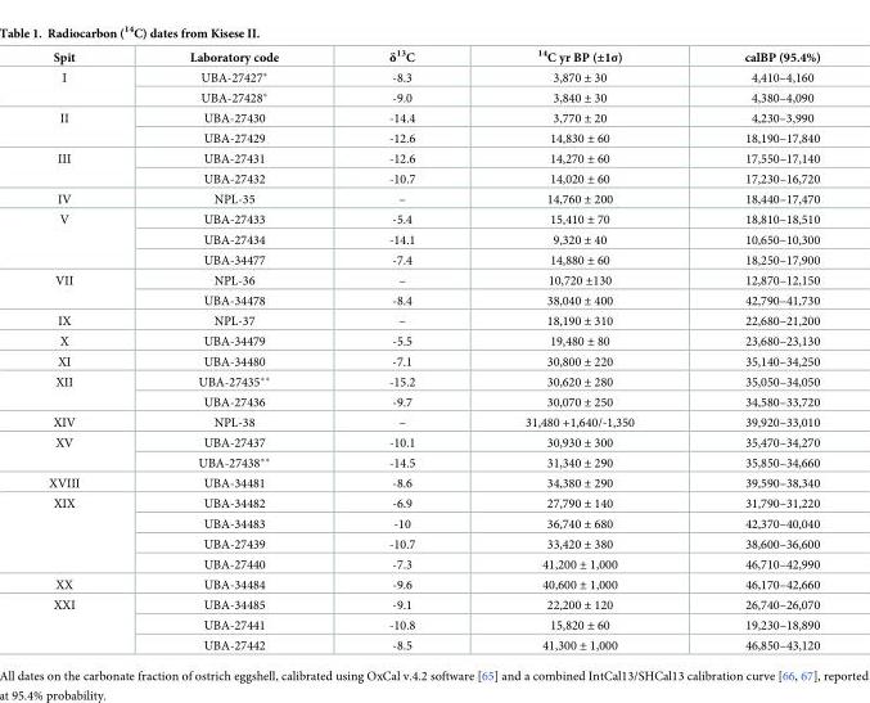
<table><thead><tr><td>Spit</td><td>Laboratory code</td><td>δ<sup>13</sup>C</td><td><sup>14</sup>C yr BP (±1σ)</td><td>calBP (95.4%)</td></tr></thead><tbody><tr><td rowspan="2">I</td><td>UBA-27427*</td><td>-8.3</td><td>3,870 ± 30</td><td>4,410–4,160</td></tr><tr><td>UBA-27428*</td><td>-9.0</td><td>3,840 ± 30</td><td>4,380–4,090</td></tr><tr><td rowspan="2">II</td><td>UBA-27430</td><td>-14.4</td><td>3,770 ± 20</td><td>4,230–3,990</td></tr><tr><td>UBA-27429</td><td>-12.6</td><td>14,830 ± 60</td><td>18,190–17,840</td></tr><tr><td rowspan="2">III</td><td>UBA-27431</td><td>-12.6</td><td>14,270 ± 60</td><td>17,550–17,140</td></tr><tr><td>UBA-27432</td><td>-10.7</td><td>14,020 ± 60</td><td>17,230–16,720</td></tr><tr><td>IV</td><td>NPL-35</td><td>–</td><td>14,760 ± 200</td><td>18,440–17,470</td></tr><tr><td rowspan="3">V</td><td>UBA-27433</td><td>-5.4</td><td>15,410 ± 70</td><td>18,810–18,510</td></tr><tr><td>UBA-27434</td><td>-14.1</td><td>9,320 ± 40</td><td>10,650–10,300</td></tr><tr><td>UBA-34477</td><td>-7.4</td><td>14,880 ± 60</td><td>18,250–17,900</td></tr><tr><td rowspan="2">VII</td><td>NPL-36</td><td>–</td><td>10,720 ±130</td><td>12,870–12,150</td></tr><tr><td>UBA-34478</td><td>-8.4</td><td>38,040 ± 400</td><td>42,790–41,730</td></tr><tr><td>IX</td><td>NPL-37</td><td>–</td><td>18,190 ± 310</td><td>22,680–21,200</td></tr><tr><td>X</td><td>UBA-34479</td><td>-5.5</td><td>19,480 ± 80</td><td>23,680–23,130</td></tr><tr><td>XI</td><td>UBA-34480</td><td>-7.1</td><td>30,800 ± 220</td><td>35,140–34,250</td></tr><tr><td rowspan="2">XII</td><td>UBA-27435**</td><td>-15.2</td><td>30,620 ± 280</td><td>35,050–34,050</td></tr><tr><td>UBA-27436</td><td>-9.7</td><td>30,070 ± 250</td><td>34,580–33,720</td></tr><tr><td>XIV</td><td>NPL-38</td><td>–</td><td>31,480 +1,640/-1,350</td><td>39,920–33,010</td></tr><tr><td rowspan="2">XV</td><td>UBA-27437</td><td>-10.1</td><td>30,930 ± 300</td><td>35,470–34,270</td></tr><tr><td>UBA-27438**</td><td>-14.5</td><td>31,340 ± 290</td><td>35,850–34,660</td></tr><tr><td>XVIII</td><td>UBA-34481</td><td>-8.6</td><td>34,380 ± 290</td><td>39,590–38,340</td></tr><tr><td rowspan="4">XIX</td><td>UBA-34482</td><td>-6.9</td><td>27,790 ± 140</td><td>31,790–31,220</td></tr><tr><td>UBA-34483</td><td>-10</td><td>36,740 ± 680</td><td>42,370–40,040</td></tr><tr><td>UBA-27439</td><td>-10.7</td><td>33,420 ± 380</td><td>38,600–36,600</td></tr><tr><td>UBA-27440</td><td>-7.3</td><td>41,200 ± 1,000</td><td>46,710–42,990</td></tr><tr><td>XX</td><td>UBA-34484</td><td>-9.6</td><td>40,600 ± 1,000</td><td>46,170–42,660</td></tr><tr><td rowspan="3">XXI</td><td>UBA-34485</td><td>-9.1</td><td>22,200 ± 120</td><td>26,740–26,070</td></tr><tr><td>UBA-27441</td><td>-10.8</td><td>15,820 ± 60</td><td>19,230–18,890</td></tr><tr><td>UBA-27442</td><td>-8.5</td><td>41,300 ± 1,000</td><td>46,850–43,120</td></tr></tbody></table>